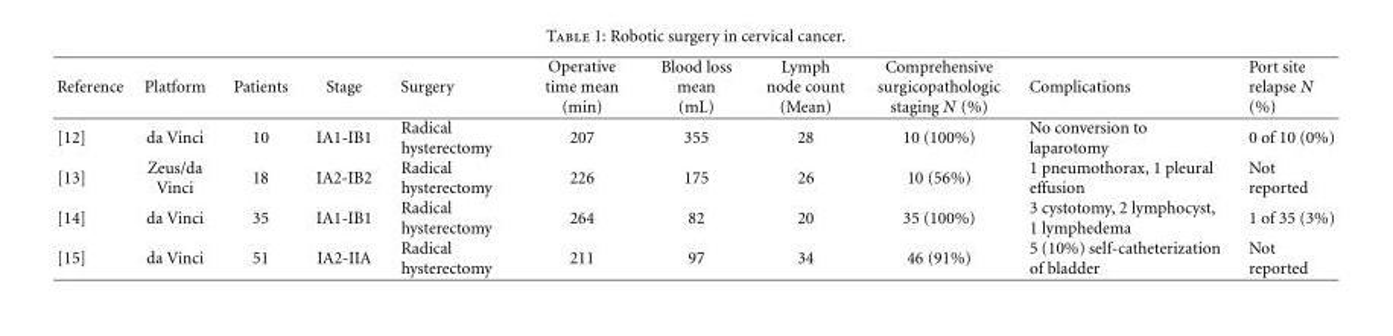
<table><thead><tr><td>Reference</td><td>Platform</td><td>Patients</td><td>Stage</td><td>Surgery</td><td>Operative time mean (min)</td><td>Blood loss mean (mL)</td><td>Lymph node count (Mean)</td><td>Comprehensive surgicopathologic staging N (%)</td><td>Complications</td><td>Port site relapse N (%)</td></tr></thead><tbody><tr><td>[12]</td><td>da Vinci</td><td>10</td><td>IA1-IB1</td><td>Radical hysterectomy</td><td>207</td><td>355</td><td>28</td><td>10 (100%)</td><td>No conversion to laparotomy</td><td>0 of 10 (0%)</td></tr><tr><td>[13]</td><td>Zeus/da Vinci</td><td>18</td><td>IA2-IB2</td><td>Radical hysterectomy</td><td>226</td><td>175</td><td>26</td><td>10 (56%)</td><td>1 pneumothorax, 1 pleural effusion</td><td>Not reported</td></tr><tr><td>[14]</td><td>da Vinci</td><td>35</td><td>IA1-IB1</td><td>Radical hysterectomy</td><td>264</td><td>82</td><td>20</td><td>35 (100%)</td><td>3 cystotomy, 2 lymphocyst, 1 lymphedema</td><td>1 of 35 (3%)</td></tr><tr><td>[15]</td><td>da Vinci</td><td>51</td><td>IA2-IIA</td><td>Radical hysterectomy</td><td>211</td><td>97</td><td>34</td><td>46 (91%)</td><td>5 (10%) self-catheterization of bladder</td><td>Not reported</td></tr></tbody></table>